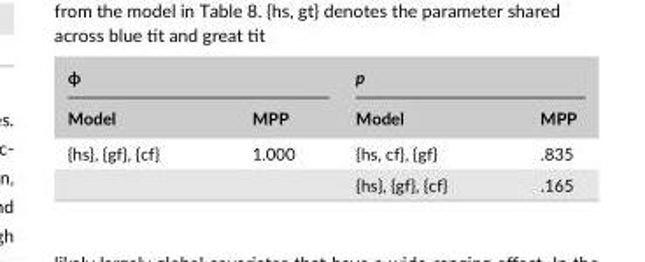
<table><thead><tr><td colspan="2">ϕ</td><td colspan="2">p</td></tr><tr><td>Model</td><td>MPP</td><td>Model</td><td>MPP</td></tr></thead><tbody><tr><td rowspan="2">{hs}, {gf}, {cf}</td><td>1.000</td><td>{hs, cf}, {gf}</td><td>.835</td></tr><tr><td></td><td>{hs}, {gf}, {cf}</td><td>.165</td></tr></tbody></table>